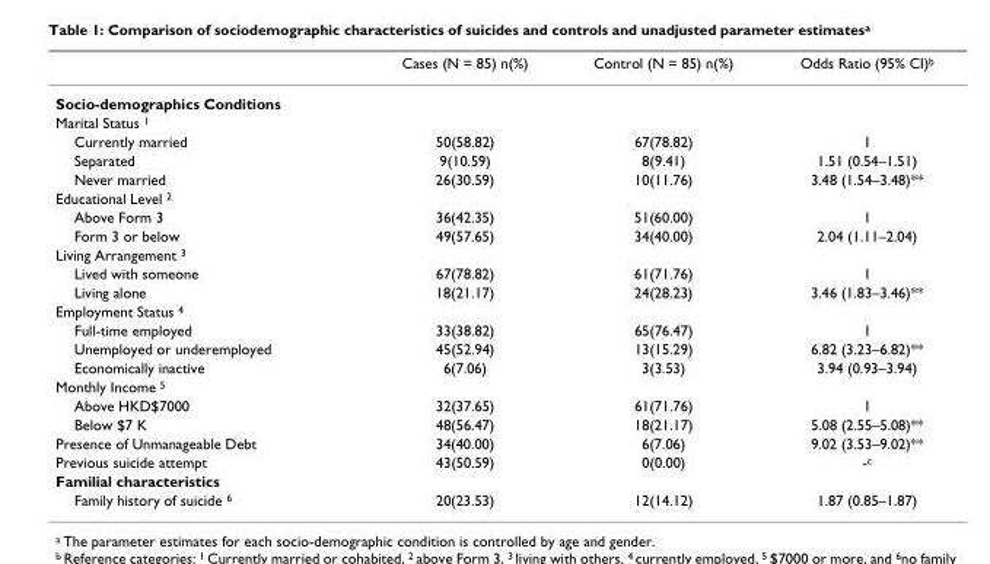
<table><thead><tr><td></td><td>Cases (N = 85) n(%)</td><td>Control (N = 85) n(%)</td><td>Odds Ratio (95% CI)<sup>b</sup></td></tr></thead><tbody><tr><td colspan="4">Socio-demographics Conditions</td></tr><tr><td colspan="4">Marital Status <sup>1</sup></td></tr><tr><td>Currently married</td><td>50(58.82)</td><td>67(78.82)</td><td>1</td></tr><tr><td>Separated</td><td>9(10.59)</td><td>8(9.41)</td><td>1.51 (0.54–1.51)</td></tr><tr><td>Never married</td><td>26(30.59)</td><td>10(11.76)</td><td>3.48 (1.54–3.48)**</td></tr><tr><td colspan="4">Educational Level <sup>2</sup></td></tr><tr><td>Above Form 3</td><td>36(42.35)</td><td>51(60.00)</td><td>1</td></tr><tr><td>Form 3 or below</td><td>49(57.65)</td><td>34(40.00)</td><td>2.04 (1.11–2.04)</td></tr><tr><td colspan="4">Living Arrangement <sup>3</sup></td></tr><tr><td>Lived with someone</td><td>67(78.82)</td><td>61(71.76)</td><td>1</td></tr><tr><td>Living alone</td><td>18(21.17)</td><td>24(28.23)</td><td>3.46 (1.83–3.46)**</td></tr><tr><td colspan="4">Employment Status <sup>4</sup></td></tr><tr><td>Full-time employed</td><td>33(38.82)</td><td>65(76.47)</td><td>1</td></tr><tr><td>Unemployed or underemployed</td><td>45(52.94)</td><td>13(15.29)</td><td>6.82 (3.23–6.82)**</td></tr><tr><td>Economically inactive</td><td>6(7.06)</td><td>3(3.53)</td><td>3.94 (0.93–3.94)</td></tr><tr><td colspan="4">Monthly Income <sup>5</sup></td></tr><tr><td>Above HKD$7000</td><td>32(37.65)</td><td>61(71.76)</td><td>1</td></tr><tr><td>Below $7 K</td><td>48(56.47)</td><td>18(21.17)</td><td>5.08 (2.55–5.08)**</td></tr><tr><td>Presence of Unmanageable Debt</td><td>34(40.00)</td><td>6(7.06)</td><td>9.02 (3.53–9.02)**</td></tr><tr><td>Previous suicide attempt</td><td>43(50.59)</td><td>0(0.00)</td><td>-<sup>c</sup></td></tr><tr><td colspan="4">Familial characteristics</td></tr><tr><td>Family history of suicide <sup>6</sup></td><td>20(23.53)</td><td>12(14.12)</td><td>1.87 (0.85–1.87)</td></tr></tbody></table>